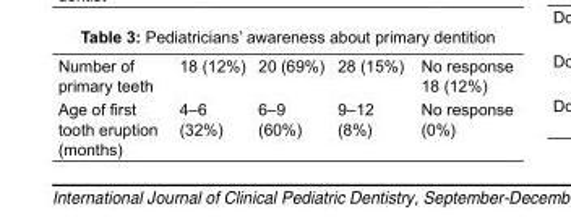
<table><tbody><tr><td>Number of primary teeth</td><td>18 (12%)</td><td>20 (69%)</td><td>28 (15%)</td><td>No response 18 (12%)</td></tr><tr><td>Age of first tooth eruption (months)</td><td>4–6 (32%)</td><td>6–9 (60%)</td><td>9–12 (8%)</td><td>No response (0%)</td></tr></tbody></table>